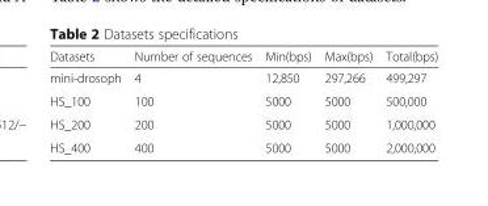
<table><thead><tr><td>Datasets</td><td>Number of sequences</td><td>Min(bps)</td><td>Max(bps)</td><td>Total(bps)</td></tr></thead><tbody><tr><td>mini-drosoph</td><td>4</td><td>12,850</td><td>297,266</td><td>499,297</td></tr><tr><td>HS_100</td><td>100</td><td>5000</td><td>5000</td><td>500,000</td></tr><tr><td>HS_200</td><td>200</td><td>5000</td><td>5000</td><td>1,000,000</td></tr><tr><td>HS_400</td><td>400</td><td>5000</td><td>5000</td><td>2,000,000</td></tr></tbody></table>